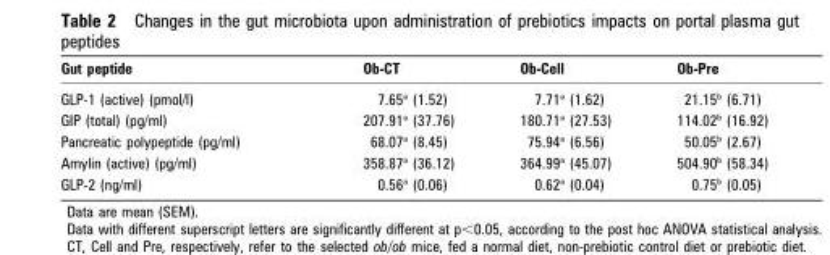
<table><thead><tr><td>Gut peptide</td><td>Ob-CT</td><td>Ob-Cell</td><td>Ob-Pre</td></tr></thead><tbody><tr><td>GLP-1 (active) (pmol/l)</td><td>7.65<sup>a</sup> (1.52)</td><td>7.71<sup>a</sup> (1.62)</td><td>21.15<sup>b</sup> (6.71)</td></tr><tr><td>GIP (total) (pg/ml)</td><td>207.91<sup>a</sup> (37.76)</td><td>180.71<sup>a</sup> (27.53)</td><td>114.02<sup>b</sup> (16.92)</td></tr><tr><td>Pancreatic polypeptide (pg/ml)</td><td>68.07<sup>a</sup> (8.45)</td><td>75.94<sup>a</sup> (6.56)</td><td>50.05<sup>b</sup> (2.67)</td></tr><tr><td>Amylin (active) (pg/ml)</td><td>358.87<sup>a</sup> (36.12)</td><td>364.99<sup>a</sup> (45.07)</td><td>504.90<sup>b</sup> (58.34)</td></tr><tr><td>GLP-2 (ng/ml)</td><td>0.56<sup>a</sup> (0.06)</td><td>0.62<sup>a</sup> (0.04)</td><td>0.75<sup>b</sup> (0.05)</td></tr></tbody></table>